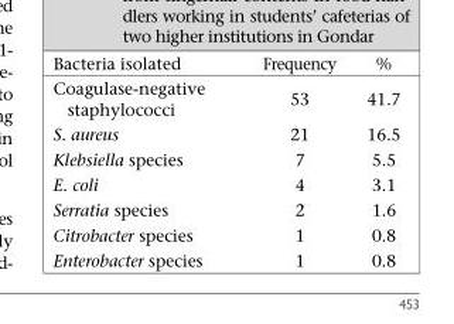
<table><thead><tr><td>Bacteria isolated</td><td>Frequency</td><td>%</td></tr></thead><tbody><tr><td>Coagulase-negative staphylococci</td><td>53</td><td>41.7</td></tr><tr><td>S. aureus</td><td>21</td><td>16.5</td></tr><tr><td>Klebsiella species</td><td>7</td><td>5.5</td></tr><tr><td>E. coli</td><td>4</td><td>3.1</td></tr><tr><td>Serratia species</td><td>2</td><td>1.6</td></tr><tr><td>Citrobacter species</td><td>1</td><td>0.8</td></tr><tr><td>Enterobacter species</td><td>1</td><td>0.8</td></tr></tbody></table>